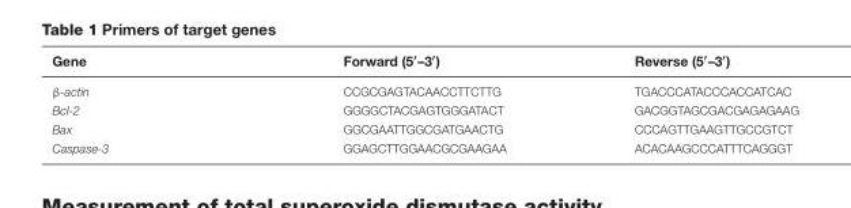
<table><thead><tr><td>Gene</td><td>Forward (5′–3′)</td><td>Reverse (5′–3′)</td></tr></thead><tbody><tr><td>β-actin</td><td>CCGCGAGTACAACCTTCTTG</td><td>TGACCCATACCCACCATCAC</td></tr><tr><td>Bcl-2</td><td>GGGGCTACGAGTGGGATACT</td><td>GACGGTAGCGACGAGAGAAG</td></tr><tr><td>Bax</td><td>GGCGAATTGGCGATGAACTG</td><td>CCCAGTTGAAGTTGCCGTCT</td></tr><tr><td>Caspase-3</td><td>GGAGCTTGGAACGCGAAGAA</td><td>ACACAAGCCCATTTCAGGGT</td></tr></tbody></table>